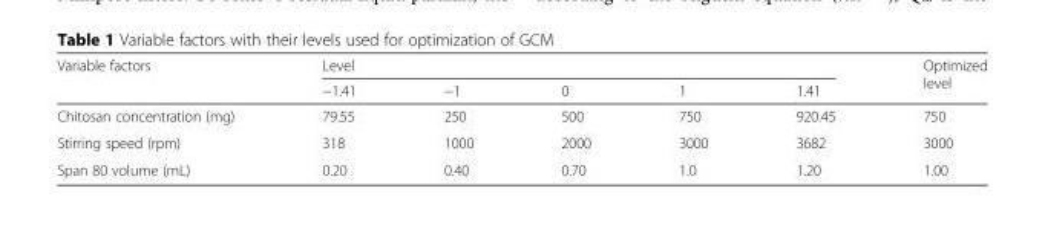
<table><thead><tr><td rowspan="2">Variable factors</td><td colspan="5">Level</td><td rowspan="2">Optimized level</td></tr><tr><td>−1.41</td><td>−1</td><td>0</td><td>1</td><td>1.41</td></tr></thead><tbody><tr><td>Chitosan concentration (mg)</td><td>79.55</td><td>250</td><td>500</td><td>750</td><td>920.45</td><td>750</td></tr><tr><td>Stirring speed (rpm)</td><td>318</td><td>1000</td><td>2000</td><td>3000</td><td>3682</td><td>3000</td></tr><tr><td>Span 80 volume (mL)</td><td>0.20</td><td>0.40</td><td>0.70</td><td>1.0</td><td>1.20</td><td>1.00</td></tr></tbody></table>